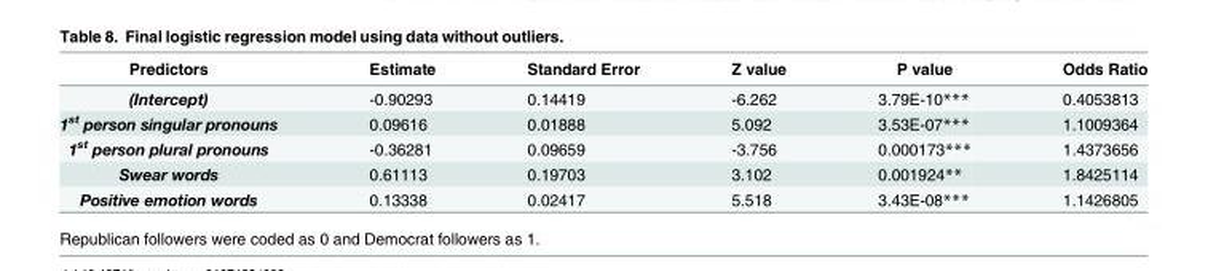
<table><thead><tr><td>Predictors</td><td>Estimate</td><td>Standard Error</td><td>Z value</td><td>P value</td><td>Odds Ratio</td></tr></thead><tbody><tr><td>(Intercept)</td><td>-0.90293</td><td>0.14419</td><td>-6.262</td><td>3.79E-10***</td><td>0.4053813</td></tr><tr><td>1<sup>st</sup> person singular pronouns</td><td>0.09616</td><td>0.01888</td><td>5.092</td><td>3.53E-07***</td><td>1.1009364</td></tr><tr><td>1<sup>st</sup> person plural pronouns</td><td>-0.36281</td><td>0.09659</td><td>-3.756</td><td>0.000173***</td><td>1.4373656</td></tr><tr><td>Swear words</td><td>0.61113</td><td>0.19703</td><td>3.102</td><td>0.001924**</td><td>1.8425114</td></tr><tr><td>Positive emotion words</td><td>0.13338</td><td>0.02417</td><td>5.518</td><td>3.43E-08***</td><td>1.1426805</td></tr></tbody></table>